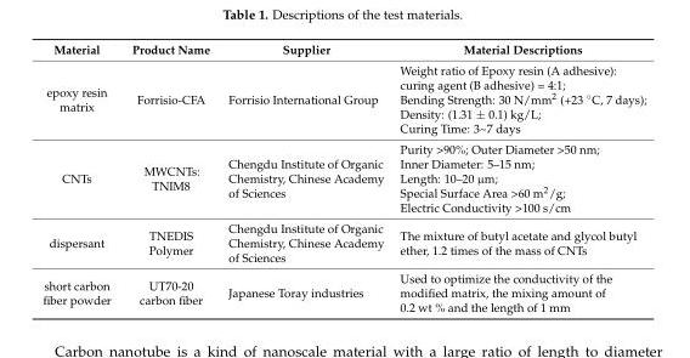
<table><thead><tr><td>Material</td><td>Product Name</td><td>Supplier</td><td>Material Descriptions</td></tr></thead><tbody><tr><td>epoxy resin matrix</td><td>Forrisio-CFA</td><td>Forrisio International Group</td><td>Weight ratio of Epoxy resin (A adhesive): curing agent (B adhesive) = 4:1; Bending Strength: 30 N/mm2 (+23 ◦C, 7 days); Density: (1.31 ± 0.1) kg/L; Curing Time: 3~7 days</td></tr><tr><td>CNTs</td><td>MWCNTs: TNIM8</td><td>Chengdu Institute of Organic Chemistry, Chinese Academy of Sciences</td><td>Purity &gt;90%; Outer Diameter &gt;50 nm; Inner Diameter: 5–15 nm; Length: 10–20 µm; Special Surface Area &gt;60 m<sup>2</sup>/g; Electric Conductivity &gt;100 s/cm</td></tr><tr><td>dispersant</td><td>TNEDIS Polymer</td><td>Chengdu Institute of Organic Chemistry, Chinese Academy of Sciences</td><td>The mixture of butyl acetate and glycol butyl ether, 1.2 times of the mass of CNTs</td></tr><tr><td>short carbon fiber powder</td><td>UT70-20 carbon fiber</td><td>Japanese Toray industries</td><td>Used to optimize the conductivity of the modified matrix, the mixing amount of 0.2 wt % and the length of 1 mm</td></tr></tbody></table>